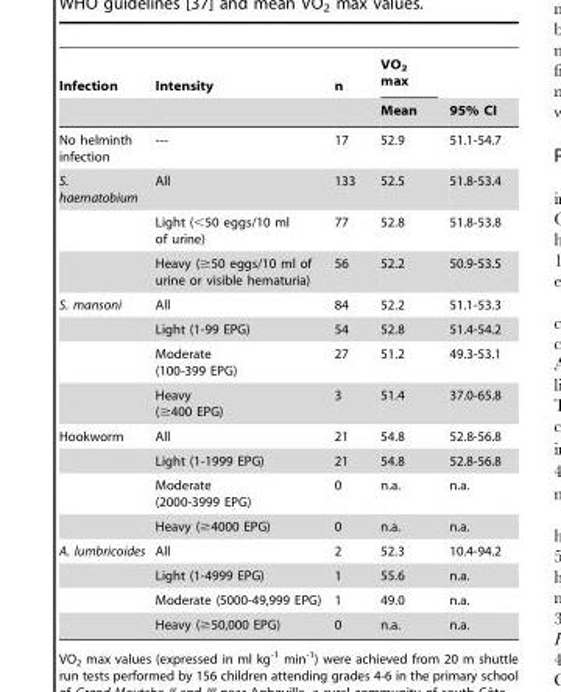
<table><thead><tr><td rowspan="2">Infection</td><td rowspan="2">Intensity</td><td rowspan="2">n</td><td rowspan="2">VO<sub>2</sub> max Mean</td><td rowspan="2">95% CI</td></tr><tr></tr></thead><tbody><tr><td>No helminth infection</td><td>---</td><td>17</td><td>52.9</td><td>51.1-54.7</td></tr><tr><td rowspan="3">S. haematobium</td><td>All</td><td>133</td><td>52.5</td><td>51.8-53.4</td></tr><tr><td>Light (&lt;50 eggs/10 ml of urine)</td><td>77</td><td>52.8</td><td>51.8-53.8</td></tr><tr><td>Heavy (≥50 eggs/10 ml of urine or visible hematuria)</td><td>56</td><td>52.2</td><td>50.9-53.5</td></tr><tr><td rowspan="4">S. mansoni</td><td>All</td><td>84</td><td>52.2</td><td>51.1-53.3</td></tr><tr><td>Light (1-99 EPG)</td><td>54</td><td>52.8</td><td>51.4-54.2</td></tr><tr><td>Moderate (100-399 EPG)</td><td>27</td><td>51.2</td><td>49.3-53.1</td></tr><tr><td>Heavy (≥400 EPG)</td><td>3</td><td>51.4</td><td>37.0-65.8</td></tr><tr><td rowspan="4">Hookworm</td><td>All</td><td>21</td><td>54.8</td><td>52.8-56.8</td></tr><tr><td>Light (1-1999 EPG)</td><td>21</td><td>54.8</td><td>52.8-56.8</td></tr><tr><td>Moderate (2000-3999 EPG)</td><td>0</td><td>n.a.</td><td>n.a.</td></tr><tr><td>Heavy (≥4000 EPG)</td><td>0</td><td>n.a.</td><td>n.a.</td></tr><tr><td rowspan="4">A. lumbricoides</td><td>All</td><td>2</td><td>52.3</td><td>10.4-94.2</td></tr><tr><td>Light (1-4999 EPG)</td><td>1</td><td>55.6</td><td>n.a.</td></tr><tr><td>Moderate (5000-49,999 EPG)</td><td>1</td><td>49.0</td><td>n.a.</td></tr><tr><td>Heavy (≥50,000 EPG)</td><td>0</td><td>n.a.</td><td>n.a.</td></tr></tbody></table>